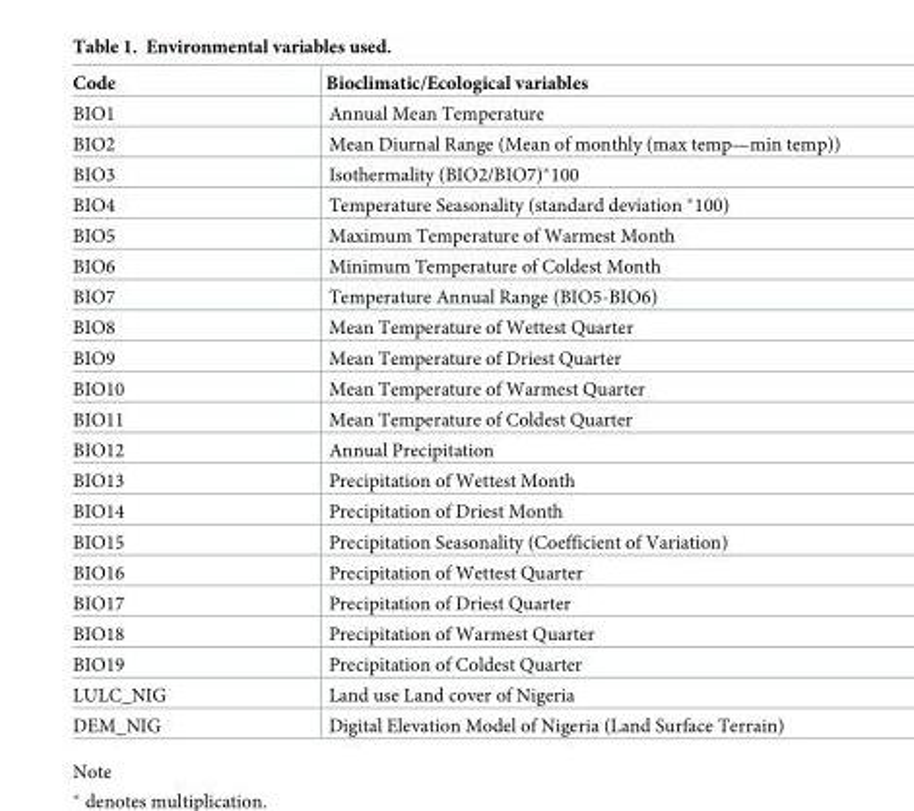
<table><thead><tr><td>Code</td><td>Bioclimatic/Ecological variables</td></tr></thead><tbody><tr><td>BIO1</td><td>Annual Mean Temperature</td></tr><tr><td>BIO2</td><td>Mean Diurnal Range (Mean of monthly (max temp—min temp))</td></tr><tr><td>BIO3</td><td>Isothermality (BIO2/BIO7)*100</td></tr><tr><td>BIO4</td><td>Temperature Seasonality (standard deviation *100)</td></tr><tr><td>BIO5</td><td>Maximum Temperature of Warmest Month</td></tr><tr><td>BIO6</td><td>Minimum Temperature of Coldest Month</td></tr><tr><td>BIO7</td><td>Temperature Annual Range (BIO5-BIO6)</td></tr><tr><td>BIO8</td><td>Mean Temperature of Wettest Quarter</td></tr><tr><td>BIO9</td><td>Mean Temperature of Driest Quarter</td></tr><tr><td>BIO10</td><td>Mean Temperature of Warmest Quarter</td></tr><tr><td>BIO11</td><td>Mean Temperature of Coldest Quarter</td></tr><tr><td>BIO12</td><td>Annual Precipitation</td></tr><tr><td>BIO13</td><td>Precipitation of Wettest Month</td></tr><tr><td>BIO14</td><td>Precipitation of Driest Month</td></tr><tr><td>BIO15</td><td>Precipitation Seasonality (Coefficient of Variation)</td></tr><tr><td>BIO16</td><td>Precipitation of Wettest Quarter</td></tr><tr><td>BIO17</td><td>Precipitation of Driest Quarter</td></tr><tr><td>BIO18</td><td>Precipitation of Warmest Quarter</td></tr><tr><td>BIO19</td><td>Precipitation of Coldest Quarter</td></tr><tr><td>LULC_NIG</td><td>Land use Land cover of Nigeria</td></tr><tr><td>DEM_NIG</td><td>Digital Elevation Model of Nigeria (Land Surface Terrain)</td></tr></tbody></table>